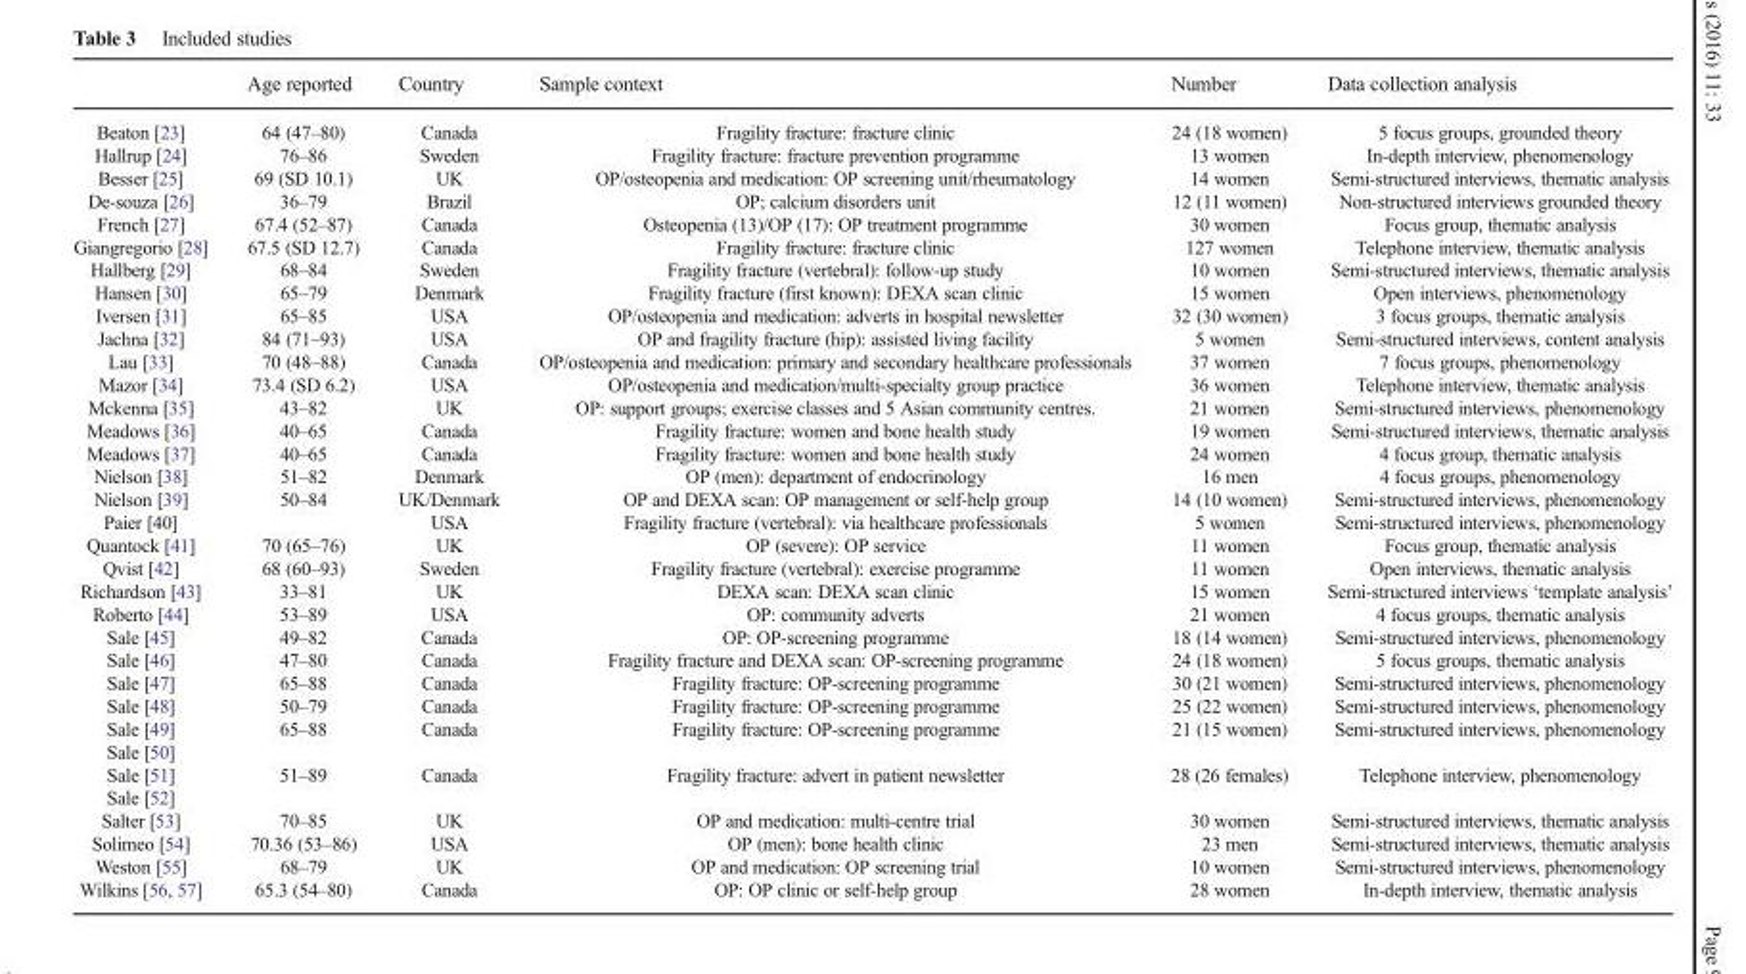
<table><thead><tr><td></td><td>Age reported</td><td>Country</td><td>Sample context</td><td>Number</td><td>Data collection analysis</td></tr></thead><tbody><tr><td>Beaton [23]</td><td>64 (47–80)</td><td>Canada</td><td>Fragility fracture: fracture clinic</td><td>24 (18 women)</td><td>5 focus groups, grounded theory</td></tr><tr><td>Hallrup [24]</td><td>76–86</td><td>Sweden</td><td>Fragility fracture: fracture prevention programme</td><td>13 women</td><td>In-depth interview, phenomenology</td></tr><tr><td>Besser [25]</td><td>69 (SD 10.1)</td><td>UK</td><td>OP/osteopenia and medication: OP screening unit/rheumatology</td><td>14 women</td><td>Semi-structured interviews, thematic analysis</td></tr><tr><td>De-souza [26]</td><td>36–79</td><td>Brazil</td><td>OP; calcium disorders unit</td><td>12 (11 women)</td><td>Non-structured interviews grounded theory</td></tr><tr><td>French [27]</td><td>67.4 (52–87)</td><td>Canada</td><td>Osteopenia (13)/OP (17): OP treatment programme</td><td>30 women</td><td>Focus group, thematic analysis</td></tr><tr><td>Giangregorio [28]</td><td>67.5 (SD 12.7)</td><td>Canada</td><td>Fragility fracture: fracture clinic</td><td>127 women</td><td>Telephone interview, thematic analysis</td></tr><tr><td>Hallberg [29]</td><td>68–84</td><td>Sweden</td><td>Fragility fracture (vertebral): follow-up study</td><td>10 women</td><td>Semi-structured interviews, thematic analysis</td></tr><tr><td>Hansen [30]</td><td>65–79</td><td>Denmark</td><td>Fragility fracture (first known): DEXA scan clinic</td><td>15 women</td><td>Open interviews, phenomenology</td></tr><tr><td>Iversen [31]</td><td>65–85</td><td>USA</td><td>OP/osteopenia and medication: adverts in hospital newsletter</td><td>32 (30 women)</td><td>3 focus groups, thematic analysis</td></tr><tr><td>Jachna [32]</td><td>84 (71–93)</td><td>USA</td><td>OP and fragility fracture (hip): assisted living facility</td><td>5 women</td><td>Semi-structured interviews, content analysis</td></tr><tr><td>Lau [33]</td><td>70 (48–88)</td><td>Canada</td><td>OP/osteopenia and medication: primary and secondary healthcare professionals</td><td>37 women</td><td>7 focus groups, phenomenology</td></tr><tr><td>Mazor [34]</td><td>73.4 (SD 6.2)</td><td>USA</td><td>OP/osteopenia and medication/multi-specialty group practice</td><td>36 women</td><td>Telephone interview, thematic analysis</td></tr><tr><td>Mckenna [35]</td><td>43–82</td><td>UK</td><td>OP: support groups; exercise classes and 5 Asian community centres.</td><td>21 women</td><td>Semi-structured interviews, phenomenology</td></tr><tr><td>Meadows [36]</td><td>40–65</td><td>Canada</td><td>Fragility fracture: women and bone health study</td><td>19 women</td><td>Semi-structured interviews, thematic analysis</td></tr><tr><td>Meadows [37]</td><td>40–65</td><td>Canada</td><td>Fragility fracture: women and bone health study</td><td>24 women</td><td>4 focus group, thematic analysis</td></tr><tr><td>Nielson [38]</td><td>51–82</td><td>Denmark</td><td>OP (men): department of endocrinology</td><td>16 men</td><td>4 focus groups, phenomenology</td></tr><tr><td>Nielson [39]</td><td>50–84</td><td>UK/Denmark</td><td>OP and DEXA scan: OP management or self-help group</td><td>14 (10 women)</td><td>Semi-structured interviews, phenomenology</td></tr><tr><td>Paier [40]</td><td></td><td>USA</td><td>Fragility fracture (vertebral): via healthcare professionals</td><td>5 women</td><td>Semi-structured interviews, phenomenology</td></tr><tr><td>Quantock [41]</td><td>70 (65–76)</td><td>UK</td><td>OP (severe): OP service</td><td>11 women</td><td>Focus group, thematic analysis</td></tr><tr><td>Qvist [42]</td><td>68 (60–93)</td><td>Sweden</td><td>Fragility fracture (vertebral): exercise programme</td><td>11 women</td><td>Open interviews, thematic analysis</td></tr><tr><td>Richardson [43]</td><td>33–81</td><td>UK</td><td>DEXA scan: DEXA scan clinic</td><td>15 women</td><td>Semi-structured interviews ‘template analysis’</td></tr><tr><td>Roberto [44]</td><td>53–89</td><td>USA</td><td>OP: community adverts</td><td>21 women</td><td>4 focus groups, thematic analysis</td></tr><tr><td>Sale [45]</td><td>49–82</td><td>Canada</td><td>OP: OP-screening programme</td><td>18 (14 women)</td><td>Semi-structured interviews, phenomenology</td></tr><tr><td>Sale [46]</td><td>47–80</td><td>Canada</td><td>Fragility fracture and DEXA scan: OP-screening programme</td><td>24 (18 women)</td><td>5 focus groups, thematic analysis</td></tr><tr><td>Sale [47]</td><td>65–88</td><td>Canada</td><td>Fragility fracture: OP-screening programme</td><td>30 (21 women)</td><td>Semi-structured interviews, phenomenology</td></tr><tr><td>Sale [48]</td><td>50–79</td><td>Canada</td><td>Fragility fracture: OP-screening programme</td><td>25 (22 women)</td><td>Semi-structured interviews, phenomenology</td></tr><tr><td>Sale [49]</td><td rowspan="2">65–88</td><td rowspan="2">Canada</td><td rowspan="2">Fragility fracture: OP-screening programme</td><td rowspan="2">21 (15 women)</td><td rowspan="2">Semi-structured interviews, phenomenology</td></tr><tr><td>Sale [50]</td></tr><tr><td>Sale [51]</td><td rowspan="2">51–89</td><td rowspan="2">Canada</td><td rowspan="2">Fragility fracture: advert in patient newsletter</td><td rowspan="2">28 (26 females)</td><td rowspan="2">Telephone interview, phenomenology</td></tr><tr><td>Sale [52]</td></tr><tr><td>Salter [53]</td><td>70–85</td><td>UK</td><td>OP and medication: multi-centre trial</td><td>30 women</td><td>Semi-structured interviews, thematic analysis</td></tr><tr><td>Solimeo [54]</td><td>70.36 (53–86)</td><td>USA</td><td>OP (men): bone health clinic</td><td>23 men</td><td>Semi-structured interviews, thematic analysis</td></tr><tr><td>Weston [55]</td><td>68–79</td><td>UK</td><td>OP and medication: OP screening trial</td><td>10 women</td><td>Semi-structured interviews, phenomenology</td></tr><tr><td>Wilkins [56, 57]</td><td>65.3 (54–80)</td><td>Canada</td><td>OP: OP clinic or self-help group</td><td>28 women</td><td>In-depth interview, thematic analysis</td></tr></tbody></table>